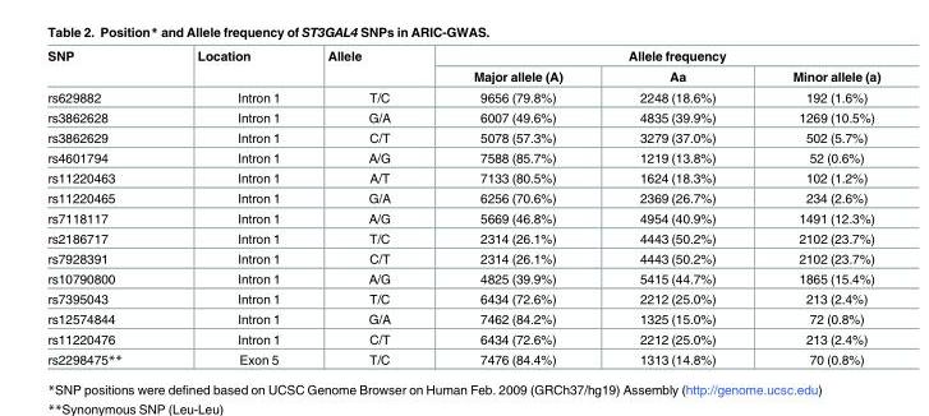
<table><thead><tr><td rowspan="2">SNP</td><td rowspan="2">Location</td><td rowspan="2">Allele</td><td colspan="3">Allele frequency</td></tr><tr><td>Major allele (A)</td><td>Aa</td><td>Minor allele (a)</td></tr></thead><tbody><tr><td>rs629882</td><td>Intron 1</td><td>T/C</td><td>9656 (79.8%)</td><td>2248 (18.6%)</td><td>192 (1.6%)</td></tr><tr><td>rs3862628</td><td>Intron 1</td><td>G/A</td><td>6007 (49.6%)</td><td>4835 (39.9%)</td><td>1269 (10.5%)</td></tr><tr><td>rs3862629</td><td>Intron 1</td><td>C/T</td><td>5078 (57.3%)</td><td>3279 (37.0%)</td><td>502 (5.7%)</td></tr><tr><td>rs4601794</td><td>Intron 1</td><td>A/G</td><td>7588 (85.7%)</td><td>1219 (13.8%)</td><td>52 (0.6%)</td></tr><tr><td>rs11220463</td><td>Intron 1</td><td>A/T</td><td>7133 (80.5%)</td><td>1624 (18.3%)</td><td>102 (1.2%)</td></tr><tr><td>rs11220465</td><td>Intron 1</td><td>G/A</td><td>6256 (70.6%)</td><td>2369 (26.7%)</td><td>234 (2.6%)</td></tr><tr><td>rs7118117</td><td>Intron 1</td><td>A/G</td><td>5669 (46.8%)</td><td>4954 (40.9%)</td><td>1491 (12.3%)</td></tr><tr><td>rs2186717</td><td>Intron 1</td><td>T/C</td><td>2314 (26.1%)</td><td>4443 (50.2%)</td><td>2102 (23.7%)</td></tr><tr><td>rs7928391</td><td>Intron 1</td><td>C/T</td><td>2314 (26.1%)</td><td>4443 (50.2%)</td><td>2102 (23.7%)</td></tr><tr><td>rs10790800</td><td>Intron 1</td><td>A/G</td><td>4825 (39.9%)</td><td>5415 (44.7%)</td><td>1865 (15.4%)</td></tr><tr><td>rs7395043</td><td>Intron 1</td><td>T/C</td><td>6434 (72.6%)</td><td>2212 (25.0%)</td><td>213 (2.4%)</td></tr><tr><td>rs12574844</td><td>Intron 1</td><td>G/A</td><td>7462 (84.2%)</td><td>1325 (15.0%)</td><td>72 (0.8%)</td></tr><tr><td>rs11220476</td><td>Intron 1</td><td>C/T</td><td>6434 (72.6%)</td><td>2212 (25.0%)</td><td>213 (2.4%)</td></tr><tr><td>rs2298475**</td><td>Exon 5</td><td>T/C</td><td>7476 (84.4%)</td><td>1313 (14.8%)</td><td>70 (0.8%)</td></tr></tbody></table>